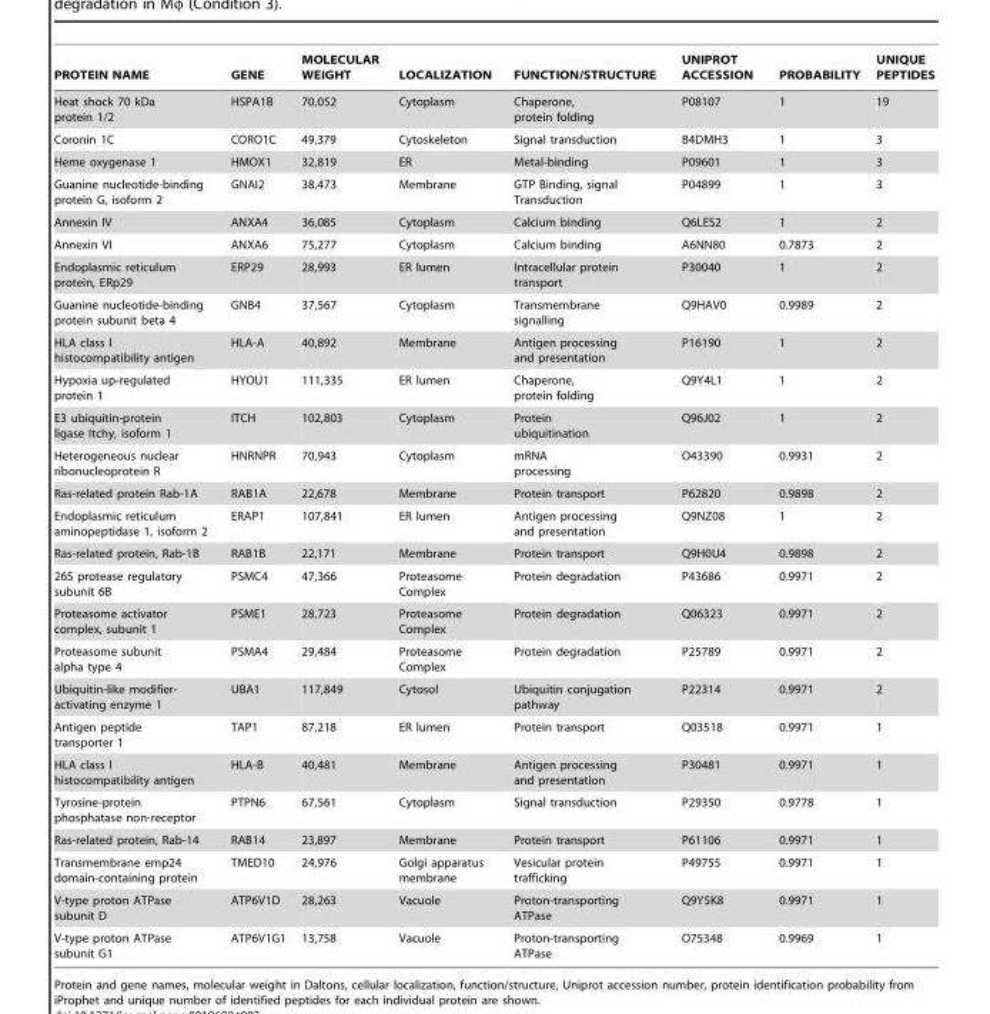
<table><thead><tr><td>PROTEIN NAME</td><td>GENE</td><td>MOLECULAR WEIGHT</td><td>LOCALIZATION</td><td>FUNCTION/STRUCTURE</td><td>UNIPROT ACCESSION</td><td>PROBABILITY</td><td>UNIQUE PEPTIDES</td></tr></thead><tbody><tr><td>Heat shock 70 kDa protein 1/2</td><td>HSPA1B</td><td>70,052</td><td>Cytoplasm</td><td>Chaperone, protein folding</td><td>P08107</td><td>1</td><td>19</td></tr><tr><td>Coronin 1C</td><td>CORO1C</td><td>49,379</td><td>Cytoskeleton</td><td>Signal transduction</td><td>B4DMH3</td><td>1</td><td>3</td></tr><tr><td>Heme oxygenase 1</td><td>HMOX1</td><td>32,819</td><td>ER</td><td>Metal-binding</td><td>P09601</td><td>1</td><td>3</td></tr><tr><td>Guanine nucleotide-binding protein G, isoform 2</td><td>GNAI2</td><td>38,473</td><td>Membrane</td><td>GTP Binding, signal Transduction</td><td>P04899</td><td>1</td><td>3</td></tr><tr><td>Annexin IV</td><td>ANXA4</td><td>36,085</td><td>Cytoplasm</td><td>Calcium binding</td><td>Q6LES2</td><td>1</td><td>2</td></tr><tr><td>Annexin VI</td><td>ANXA6</td><td>75,277</td><td>Cytoplasm</td><td>Calcium binding</td><td>A6NN80</td><td>0.7873</td><td>2</td></tr><tr><td>Endoplasmic reticulum protein, ERp29</td><td>ERP29</td><td>28,993</td><td>ER lumen</td><td>Intracellular protein transport</td><td>P30040</td><td>1</td><td>2</td></tr><tr><td>Guanine nucleotide-binding protein subunit beta 4</td><td>GNB4</td><td>37,567</td><td>Cytoplasm</td><td>Transmembrane signalling</td><td>Q9HAV0</td><td>0.9989</td><td>2</td></tr><tr><td>HLA class I histocompatibility antigen</td><td>HLA-A</td><td>40,892</td><td>Membrane</td><td>Antigen processing and presentation</td><td>P16190</td><td>1</td><td>2</td></tr><tr><td>Hypoxia up-regulated protein 1</td><td>HYOU1</td><td>111,335</td><td>ER lumen</td><td>Chaperone, protein folding</td><td>Q9Y4L1</td><td>1</td><td>2</td></tr><tr><td>E3 ubiquitin-protein ligase Itchy, isoform 1</td><td>ITCH</td><td>102,803</td><td>Cytoplasm</td><td>Protein ubiquitination</td><td>Q96J02</td><td>1</td><td>2</td></tr><tr><td>Heterogeneous nuclear ribonucleoprotein R</td><td>HNRNPR</td><td>70,943</td><td>Cytoplasm</td><td>mRNA processing</td><td>O43390</td><td>0.9931</td><td>2</td></tr><tr><td>Ras-related protein Rab-1A</td><td>RAB1A</td><td>22,678</td><td>Membrane</td><td>Protein transport</td><td>P62820</td><td>0.9898</td><td>2</td></tr><tr><td>Endoplasmic reticulum aminopeptidase 1, isoform 2</td><td>ERAP1</td><td>107,841</td><td>ER lumen</td><td>Antigen processing and presentation</td><td>Q9NZ08</td><td>1</td><td>2</td></tr><tr><td>Ras-related protein, Rab-1B</td><td>RAB1B</td><td>22,171</td><td>Membrane</td><td>Protein transport</td><td>Q9H0U4</td><td>0.9898</td><td>2</td></tr><tr><td>26S protease regulatory subunit 6B</td><td>PSMC4</td><td>47,366</td><td>Proteasome Complex</td><td>Protein degradation</td><td>P43686</td><td>0.9971</td><td>2</td></tr><tr><td>Proteasome activator complex, subunit 1</td><td>PSME1</td><td>28,723</td><td>Proteasome Complex</td><td>Protein degradation</td><td>Q06323</td><td>0.9971</td><td>2</td></tr><tr><td>Proteasome subunit alpha type 4</td><td>PSMA4</td><td>29,484</td><td>Proteasome Complex</td><td>Protein degradation</td><td>P25789</td><td>0.9971</td><td>2</td></tr><tr><td>Ubiquitin-like modifier- activating enzyme 1</td><td>UBA1</td><td>117,849</td><td>Cytosol</td><td>Ubiquitin conjugation pathway</td><td>P22314</td><td>0.9971</td><td>2</td></tr><tr><td>Antigen peptide transporter 1</td><td>TAP1</td><td>87,218</td><td>ER lumen</td><td>Protein transport</td><td>Q03518</td><td>0.9971</td><td>1</td></tr><tr><td>HLA class I histocompatibility antigen</td><td>HLA-B</td><td>40,481</td><td>Membrane</td><td>Antigen processing and presentation</td><td>P30481</td><td>0.9971</td><td>1</td></tr><tr><td>Tyrosine-protein phosphatase non-receptor</td><td>PTPN6</td><td>67,561</td><td>Cytoplasm</td><td>Signal transduction</td><td>P29350</td><td>0.9778</td><td>1</td></tr><tr><td>Ras-related protein, Rab-14</td><td>RAB14</td><td>23,897</td><td>Membrane</td><td>Protein transport</td><td>P61106</td><td>0.9971</td><td>1</td></tr><tr><td>Transmembrane emp24 domain-containing protein</td><td>TMED10</td><td>24,976</td><td>Golgi apparatus membrane</td><td>Vesicular protein trafficking</td><td>P49755</td><td>0.9971</td><td>1</td></tr><tr><td>V-type proton ATPase subunit D</td><td>ATP6V1D</td><td>28,263</td><td>Vacuole</td><td>Proton-transporting ATPase</td><td>Q9Y5K8</td><td>0.9971</td><td>1</td></tr><tr><td>V-type proton ATPase subunit G1</td><td>ATP6V1G1</td><td>13,758</td><td>Vacuole</td><td>Proton-transporting ATPase</td><td>O75348</td><td>0.9969</td><td>1</td></tr></tbody></table>